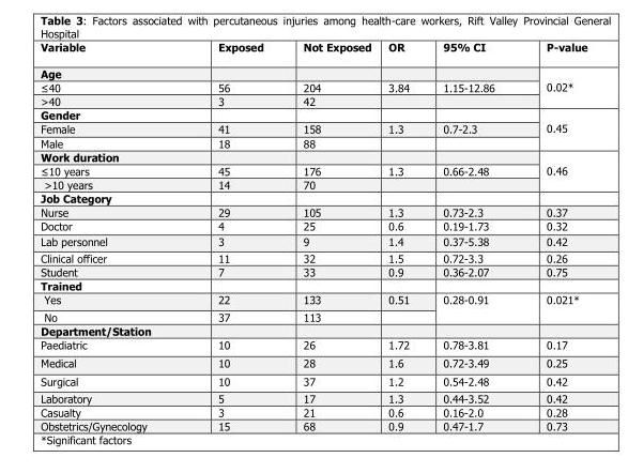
<table><thead><tr><td>Variable</td><td>Exposed</td><td>Not Exposed</td><td>OR</td><td>95% CI</td><td>P-value</td></tr></thead><tbody><tr><td colspan="5">Age</td><td rowspan="3">0.02*</td></tr><tr><td>≤40</td><td>56</td><td>204</td><td>3.84</td><td>1.15-12.86</td></tr><tr><td>&gt;40</td><td>3</td><td>42</td><td></td><td></td></tr><tr><td colspan="5">Gender</td><td rowspan="3">0.45</td></tr><tr><td>Female</td><td>41</td><td>158</td><td>1.3</td><td>0.7-2.3</td></tr><tr><td>Male</td><td>18</td><td>88</td><td></td><td></td></tr><tr><td colspan="5">Work duration</td><td rowspan="3">0.46</td></tr><tr><td>≤10 years</td><td>45</td><td>176</td><td>1.3</td><td>0.66-2.48</td></tr><tr><td>&gt;10 years</td><td>14</td><td>70</td><td></td><td></td></tr><tr><td colspan="6">Job Category</td></tr><tr><td>Nurse</td><td>29</td><td>105</td><td>1.3</td><td>0.73-2.3</td><td>0.37</td></tr><tr><td>Doctor</td><td>4</td><td>25</td><td>0.6</td><td>0.19-1.73</td><td>0.32</td></tr><tr><td>Lab personnel</td><td>3</td><td>9</td><td>1.4</td><td>0.37-5.38</td><td>0.42</td></tr><tr><td>Clinical officer</td><td>11</td><td>32</td><td>1.5</td><td>0.72-3.3</td><td>0.26</td></tr><tr><td>Student</td><td>7</td><td>33</td><td>0.9</td><td>0.36-2.07</td><td>0.75</td></tr><tr><td colspan="6">Trained</td></tr><tr><td>Yes</td><td>22</td><td>133</td><td>0.51</td><td rowspan="2">0.28-0.91</td><td rowspan="2">0.021*</td></tr><tr><td>No</td><td>37</td><td>113</td><td></td></tr><tr><td colspan="6">Department/Station</td></tr><tr><td>Paediatric</td><td>10</td><td>26</td><td>1.72</td><td>0.78-3.81</td><td>0.17</td></tr><tr><td>Medical</td><td>10</td><td>28</td><td>1.6</td><td>0.72-3.49</td><td>0.25</td></tr><tr><td>Surgical</td><td>10</td><td>37</td><td>1.2</td><td>0.54-2.48</td><td>0.42</td></tr><tr><td>Laboratory</td><td>5</td><td>17</td><td>1.3</td><td>0.44-3.52</td><td>0.42</td></tr><tr><td>Casualty</td><td>3</td><td>21</td><td>0.6</td><td>0.16-2.0</td><td>0.28</td></tr><tr><td>Obstetrics/Gynecology</td><td>15</td><td>68</td><td>0.9</td><td>0.47-1.7</td><td>0.73</td></tr></tbody></table>